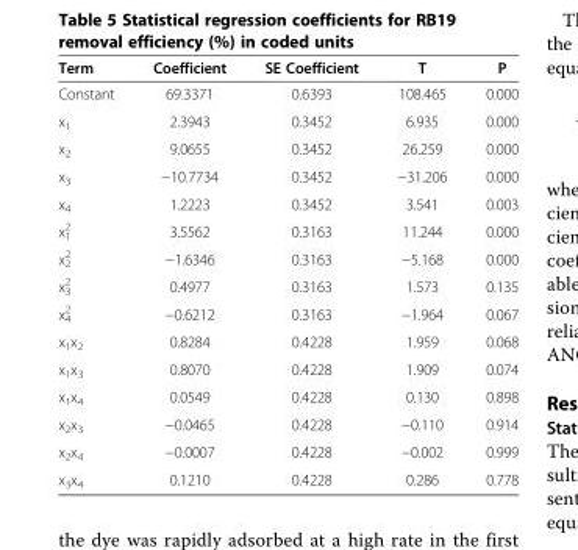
<table><thead><tr><td>Term</td><td>Coefficient</td><td>SE Coefficient</td><td>T</td><td>P</td></tr></thead><tbody><tr><td>Constant</td><td>69.3371</td><td>0.6393</td><td>108.465</td><td>0.000</td></tr><tr><td>x<sub>1</sub></td><td>2.3943</td><td>0.3452</td><td>6.935</td><td>0.000</td></tr><tr><td>x<sub>2</sub></td><td>9.0655</td><td>0.3452</td><td>26.259</td><td>0.000</td></tr><tr><td>x<sub>3</sub></td><td>−10.7734</td><td>0.3452</td><td>−31.206</td><td>0.000</td></tr><tr><td>x<sub>4</sub></td><td>1.2223</td><td>0.3452</td><td>3.541</td><td>0.003</td></tr><tr><td>x<sub>1</sub> <sup>2</sup></td><td>3.5562</td><td>0.3163</td><td>11.244</td><td>0.000</td></tr><tr><td>x<sub>2</sub> <sup>2</sup></td><td>−1.6346</td><td>0.3163</td><td>−5.168</td><td>0.000</td></tr><tr><td>x<sub>3</sub> <sup>2</sup></td><td>0.4977</td><td>0.3163</td><td>1.573</td><td>0.135</td></tr><tr><td>x<sub>4</sub> <sup>2</sup></td><td>−0.6212</td><td>0.3163</td><td>−1.964</td><td>0.067</td></tr><tr><td>x<sub>1</sub>x<sub>2</sub></td><td>0.8284</td><td>0.4228</td><td>1.959</td><td>0.068</td></tr><tr><td>x<sub>1</sub>x<sub>3</sub></td><td>0.8070</td><td>0.4228</td><td>1.909</td><td>0.074</td></tr><tr><td>x<sub>1</sub>x<sub>4</sub></td><td>0.0549</td><td>0.4228</td><td>0.130</td><td>0.898</td></tr><tr><td>x<sub>2</sub>x<sub>3</sub></td><td>−0.0465</td><td>0.4228</td><td>−0.110</td><td>0.914</td></tr><tr><td>x<sub>2</sub>x<sub>4</sub></td><td>−0.0007</td><td>0.4228</td><td>−0.002</td><td>0.999</td></tr><tr><td>x<sub>3</sub>x<sub>4</sub></td><td>0.1210</td><td>0.4228</td><td>0.286</td><td>0.778</td></tr></tbody></table>